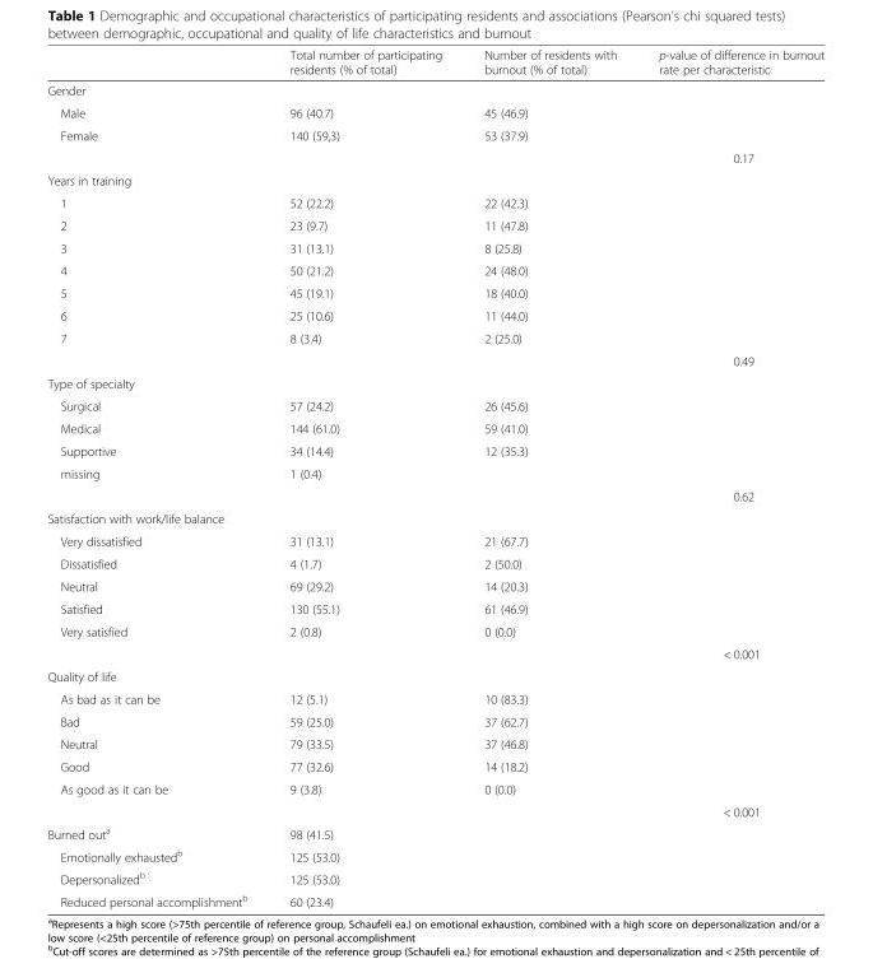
<table><thead><tr><td></td><td>Total number of participating residents (% of total)</td><td>Number of residents with burnout (% of total)</td><td>p-value of difference in burnout rate per characteristic</td></tr></thead><tbody><tr><td colspan="4">Gender</td></tr><tr><td>Male</td><td>96 (40.7)</td><td>45 (46.9)</td><td></td></tr><tr><td rowspan="2">Female</td><td>140 (59,3)</td><td>53 (37.9)</td><td></td></tr><tr><td></td><td></td><td>0.17</td></tr><tr><td colspan="4">Years in training</td></tr><tr><td>1</td><td>52 (22.2)</td><td>22 (42.3)</td><td></td></tr><tr><td>2</td><td>23 (9.7)</td><td>11 (47.8)</td><td></td></tr><tr><td>3</td><td>31 (13.1)</td><td>8 (25.8)</td><td></td></tr><tr><td>4</td><td>50 (21.2)</td><td>24 (48.0)</td><td></td></tr><tr><td>5</td><td>45 (19.1)</td><td>18 (40.0)</td><td></td></tr><tr><td>6</td><td>25 (10.6)</td><td>11 (44.0)</td><td></td></tr><tr><td rowspan="2">7</td><td>8 (3.4)</td><td>2 (25.0)</td><td></td></tr><tr><td></td><td></td><td>0.49</td></tr><tr><td colspan="4">Type of specialty</td></tr><tr><td>Surgical</td><td>57 (24.2)</td><td>26 (45.6)</td><td></td></tr><tr><td>Medical</td><td>144 (61.0)</td><td>59 (41.0)</td><td></td></tr><tr><td>Supportive</td><td>34 (14.4)</td><td>12 (35.3)</td><td></td></tr><tr><td rowspan="2">missing</td><td>1 (0.4)</td><td></td><td></td></tr><tr><td></td><td></td><td>0.62</td></tr><tr><td colspan="4">Satisfaction with work/life balance</td></tr><tr><td>Very dissatisfied</td><td>31 (13.1)</td><td>21 (67.7)</td><td></td></tr><tr><td>Dissatisfied</td><td>4 (1.7)</td><td>2 (50.0)</td><td></td></tr><tr><td>Neutral</td><td>69 (29.2)</td><td>14 (20.3)</td><td></td></tr><tr><td>Satisfied</td><td>130 (55.1)</td><td>61 (46.9)</td><td></td></tr><tr><td rowspan="2">Very satisfied</td><td>2 (0.8)</td><td>0 (0.0)</td><td></td></tr><tr><td></td><td></td><td>&lt; 0.001</td></tr><tr><td colspan="4">Quality of life</td></tr><tr><td>As bad as it can be</td><td>12 (5.1)</td><td>10 (83.3)</td><td></td></tr><tr><td>Bad</td><td>59 (25.0)</td><td>37 (62.7)</td><td></td></tr><tr><td>Neutral</td><td>79 (33.5)</td><td>37 (46.8)</td><td></td></tr><tr><td>Good</td><td>77 (32.6)</td><td>14 (18.2)</td><td></td></tr><tr><td rowspan="2">As good as it can be</td><td>9 (3.8)</td><td>0 (0.0)</td><td></td></tr><tr><td></td><td></td><td>&lt; 0.001</td></tr><tr><td>Burned out<sup>a</sup></td><td>98 (41.5)</td><td></td><td></td></tr><tr><td>Emotionally exhausted<sup>b</sup></td><td>125 (53.0)</td><td></td><td></td></tr><tr><td>Depersonalized<sup>b</sup></td><td>125 (53.0)</td><td></td><td></td></tr><tr><td>Reduced personal accomplishment<sup>b</sup></td><td>60 (23.4)</td><td></td><td></td></tr></tbody></table>